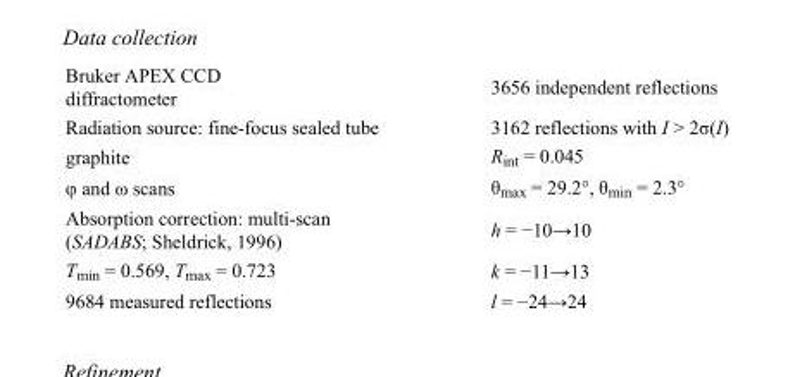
<table><tbody><tr><td>Bruker APEX CCD diffractometer</td><td>3656 independent reflections</td></tr><tr><td>Radiation source: fine-focus sealed tube</td><td>3162 reflections with I &gt; 2σ(I)</td></tr><tr><td>graphite</td><td>R<sub>int</sub> = 0.045</td></tr><tr><td>φ and ω scans</td><td>θ<sub>max</sub> = 29.2°, θ<sub>min</sub> = 2.3°</td></tr><tr><td>Absorption correction: multi-scan (SADABS; Sheldrick, 1996)</td><td>h = −10→10</td></tr><tr><td>T<sub>min</sub> = 0.569, T<sub>max</sub> = 0.723</td><td>k = −11→13</td></tr><tr><td>9684 measured reflections</td><td>l = −24→24</td></tr></tbody></table>